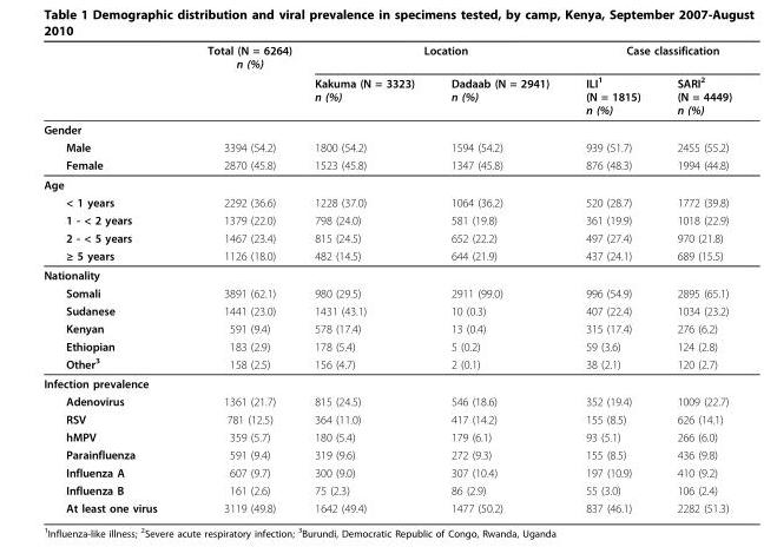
<table><thead><tr><td rowspan="2"></td><td rowspan="2">Total (N = 6264) n (%)</td><td colspan="2">Location</td><td colspan="2">Case classification</td></tr><tr><td>Kakuma (N = 3323) n (%)</td><td>Dadaab (N = 2941) n (%)</td><td>ILI<sup>1</sup> (N = 1815) n (%)</td><td>SARI<sup>2</sup> (N = 4449) n (%)</td></tr></thead><tbody><tr><td colspan="6">Gender</td></tr><tr><td>Male</td><td>3394 (54.2)</td><td>1800 (54.2)</td><td>1594 (54.2)</td><td>939 (51.7)</td><td>2455 (55.2)</td></tr><tr><td>Female</td><td>2870 (45.8)</td><td>1523 (45.8)</td><td>1347 (45.8)</td><td>876 (48.3)</td><td>1994 (44.8)</td></tr><tr><td colspan="6">Age</td></tr><tr><td>&lt; 1 years</td><td>2292 (36.6)</td><td>1228 (37.0)</td><td>1064 (36.2)</td><td>520 (28.7)</td><td>1772 (39.8)</td></tr><tr><td>1 - &lt; 2 years</td><td>1379 (22.0)</td><td>798 (24.0)</td><td>581 (19.8)</td><td>361 (19.9)</td><td>1018 (22.9)</td></tr><tr><td>2 - &lt; 5 years</td><td>1467 (23.4)</td><td>815 (24.5)</td><td>652 (22.2)</td><td>497 (27.4)</td><td>970 (21.8)</td></tr><tr><td>≥ 5 years</td><td>1126 (18.0)</td><td>482 (14.5)</td><td>644 (21.9)</td><td>437 (24.1)</td><td>689 (15.5)</td></tr><tr><td colspan="6">Nationality</td></tr><tr><td>Somali</td><td>3891 (62.1)</td><td>980 (29.5)</td><td>2911 (99.0)</td><td>996 (54.9)</td><td>2895 (65.1)</td></tr><tr><td>Sudanese</td><td>1441 (23.0)</td><td>1431 (43.1)</td><td>10 (0.3)</td><td>407 (22.4)</td><td>1034 (23.2)</td></tr><tr><td>Kenyan</td><td>591 (9.4)</td><td>578 (17.4)</td><td>13 (0.4)</td><td>315 (17.4)</td><td>276 (6.2)</td></tr><tr><td>Ethiopian</td><td>183 (2.9)</td><td>178 (5.4)</td><td>5 (0.2)</td><td>59 (3.6)</td><td>124 (2.8)</td></tr><tr><td>Other<sup>3</sup></td><td>158 (2.5)</td><td>156 (4.7)</td><td>2 (0.1)</td><td>38 (2.1)</td><td>120 (2.7)</td></tr><tr><td colspan="6">Infection prevalence</td></tr><tr><td>Adenovirus</td><td>1361 (21.7)</td><td>815 (24.5)</td><td>546 (18.6)</td><td>352 (19.4)</td><td>1009 (22.7)</td></tr><tr><td>RSV</td><td>781 (12.5)</td><td>364 (11.0)</td><td>417 (14.2)</td><td>155 (8.5)</td><td>626 (14.1)</td></tr><tr><td>hMPV</td><td>359 (5.7)</td><td>180 (5.4)</td><td>179 (6.1)</td><td>93 (5.1)</td><td>266 (6.0)</td></tr><tr><td>Parainfluenza</td><td>591 (9.4)</td><td>319 (9.6)</td><td>272 (9.3)</td><td>155 (8.5)</td><td>436 (9.8)</td></tr><tr><td>Influenza A</td><td>607 (9.7)</td><td>300 (9.0)</td><td>307 (10.4)</td><td>197 (10.9)</td><td>410 (9.2)</td></tr><tr><td>Influenza B</td><td>161 (2.6)</td><td>75 (2.3)</td><td>86 (2.9)</td><td>55 (3.0)</td><td>106 (2.4)</td></tr><tr><td>At least one virus</td><td>3119 (49.8)</td><td>1642 (49.4)</td><td>1477 (50.2)</td><td>837 (46.1)</td><td>2282 (51.3)</td></tr></tbody></table>